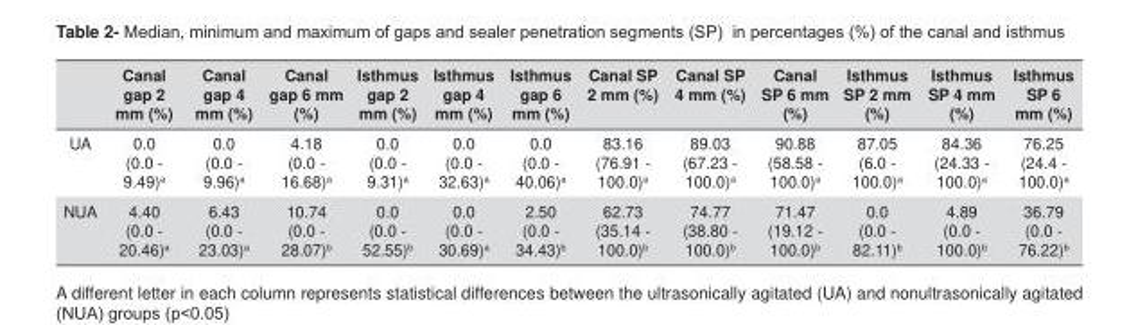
<table><thead><tr><td></td><td>Canal gap 2 mm (%)</td><td>Canal gap 4 mm (%)</td><td>Canal gap 6 mm (%)</td><td>Isthmus gap 2 mm (%)</td><td>Isthmus gap 4 mm (%)</td><td>Isthmus gap 6 mm (%)</td><td>Canal SP 2 mm (%)</td><td>Canal SP 4 mm (%)</td><td>Canal SP 6 mm (%)</td><td>Isthmus SP 2 mm (%)</td><td>Isthmus SP 4 mm (%)</td><td>Isthmus SP 6 mm (%)</td></tr></thead><tbody><tr><td>UA</td><td>0.0 (0.0 - 9.49)<sup>a</sup></td><td>0.0 (0.0 - 9.96)<sup>a</sup></td><td>4.18 (0.0 - 16.68)<sup>a</sup></td><td>0.0 (0.0 - 9.31)<sup>a</sup></td><td>0.0 (0.0 - 32.63)<sup>a</sup></td><td>0.0 (0.0 - 40.06)<sup>a</sup></td><td>83.16 (76.91 - 100.0)<sup>a</sup></td><td>89.03 (67.23 - 100.0)<sup>a</sup></td><td>90.88 (58.58 - 100.0)<sup>a</sup></td><td>87.05 (6.0 - 100.0)<sup>a</sup></td><td>84.36 (24.33 - 100.0)<sup>a</sup></td><td>76.25 (24.4 - 100.0)<sup>a</sup></td></tr><tr><td>NUA</td><td>4.40 (0.0 - 20.46)<sup>a</sup></td><td>6.43 (0.0 - 23.03)<sup>a</sup></td><td>10.74 (0.0 - 28.07)<sup>b</sup></td><td>0.0 (0.0 - 52.55)<sup>b</sup></td><td>0.0 (0.0 - 30.69)<sup>a</sup></td><td>2.50 (0.0 - 34.43)<sup>b</sup></td><td>62.73 (35.14 - 100.0)<sup>b</sup></td><td>74.77 (38.80 - 100.0)<sup>b</sup></td><td>71.47 (19.12 - 100.0)<sup>b</sup></td><td>0.0 (0.0 - 82.11)<sup>b</sup></td><td>4.89 (0.0 - 100.0)<sup>b</sup></td><td>36.79 (0.0 - 76.22)<sup>b</sup></td></tr></tbody></table>